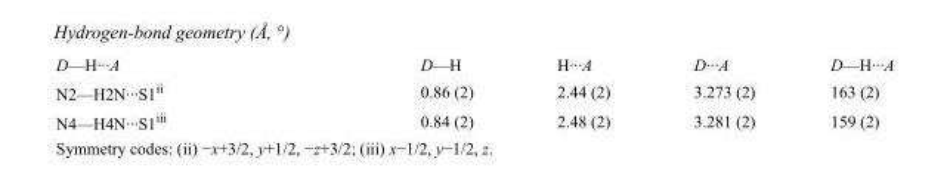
<table><tbody><tr><td>D—H···A</td><td>D—H</td><td>H···A</td><td>D···A</td><td>D—H···A</td></tr><tr><td>N2—H2N···S1<sup>ii</sup></td><td>0.86 (2)</td><td>2.44 (2)</td><td>3.273 (2)</td><td>163 (2)</td></tr><tr><td>N4—H4N···S1<sup>iii</sup></td><td>0.84 (2)</td><td>2.48 (2)</td><td>3.281 (2)</td><td>159 (2)</td></tr></tbody></table>